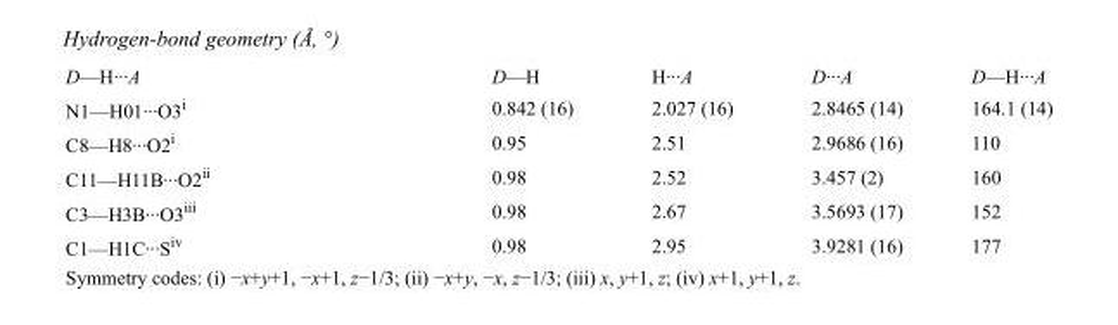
<table><tbody><tr><td>D—H···A</td><td>D—H</td><td>H···A</td><td>D···A</td><td>D—H···A</td></tr><tr><td>N1—H01···O3<sup>i</sup></td><td>0.842 (16)</td><td>2.027 (16)</td><td>2.8465 (14)</td><td>164.1 (14)</td></tr><tr><td>C8—H8···O2<sup>i</sup></td><td>0.95</td><td>2.51</td><td>2.9686 (16)</td><td>110</td></tr><tr><td>C11—H11B···O2<sup>ii</sup></td><td>0.98</td><td>2.52</td><td>3.457 (2)</td><td>160</td></tr><tr><td>C3—H3B···O3<sup>iii</sup></td><td>0.98</td><td>2.67</td><td>3.5693 (17)</td><td>152</td></tr><tr><td>C1—H1C···S<sup>iv</sup></td><td>0.98</td><td>2.95</td><td>3.9281 (16)</td><td>177</td></tr></tbody></table>